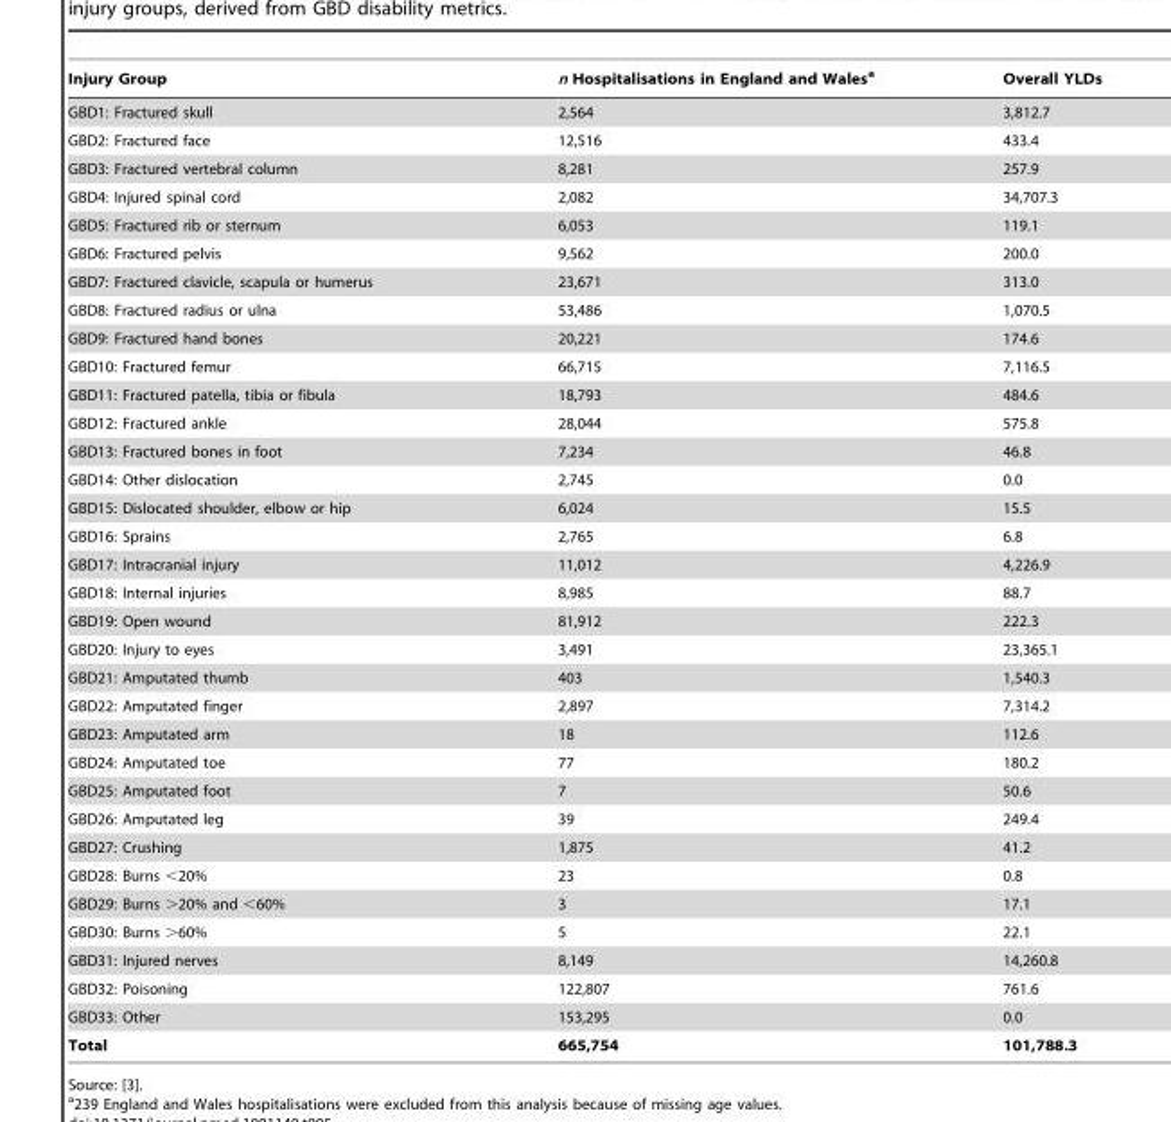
<table><thead><tr><td>Injury Group</td><td>n Hospitalisations in England and Wales<sup>a</sup></td><td>Overall YLDs</td></tr></thead><tbody><tr><td>GBD1: Fractured skull</td><td>2,564</td><td>3,812.7</td></tr><tr><td>GBD2: Fractured face</td><td>12,516</td><td>433.4</td></tr><tr><td>GBD3: Fractured vertebral column</td><td>8,281</td><td>257.9</td></tr><tr><td>GBD4: Injured spinal cord</td><td>2,082</td><td>34,707.3</td></tr><tr><td>GBD5: Fractured rib or sternum</td><td>6,053</td><td>119.1</td></tr><tr><td>GBD6: Fractured pelvis</td><td>9,562</td><td>200.0</td></tr><tr><td>GBD7: Fractured clavicle, scapula or humerus</td><td>23,671</td><td>313.0</td></tr><tr><td>GBD8: Fractured radius or ulna</td><td>53,486</td><td>1,070.5</td></tr><tr><td>GBD9: Fractured hand bones</td><td>20,221</td><td>174.6</td></tr><tr><td>GBD10: Fractured femur</td><td>66,715</td><td>7,116.5</td></tr><tr><td>GBD11: Fractured patella, tibia or fibula</td><td>18,793</td><td>484.6</td></tr><tr><td>GBD12: Fractured ankle</td><td>28,044</td><td>575.8</td></tr><tr><td>GBD13: Fractured bones in foot</td><td>7,234</td><td>46.8</td></tr><tr><td>GBD14: Other dislocation</td><td>2,745</td><td>0.0</td></tr><tr><td>GBD15: Dislocated shoulder, elbow or hip</td><td>6,024</td><td>15.5</td></tr><tr><td>GBD16: Sprains</td><td>2,765</td><td>6.8</td></tr><tr><td>GBD17: Intracranial injury</td><td>11,012</td><td>4,226.9</td></tr><tr><td>GBD18: Internal injuries</td><td>8,985</td><td>88.7</td></tr><tr><td>GBD19: Open wound</td><td>81,912</td><td>222.3</td></tr><tr><td>GBD20: Injury to eyes</td><td>3,491</td><td>23,365.1</td></tr><tr><td>GBD21: Amputated thumb</td><td>403</td><td>1,540.3</td></tr><tr><td>GBD22: Amputated finger</td><td>2,897</td><td>7,314.2</td></tr><tr><td>GBD23: Amputated arm</td><td>18</td><td>112.6</td></tr><tr><td>GBD24: Amputated toe</td><td>77</td><td>180.2</td></tr><tr><td>GBD25: Amputated foot</td><td>7</td><td>50.6</td></tr><tr><td>GBD26: Amputated leg</td><td>39</td><td>249.4</td></tr><tr><td>GBD27: Crushing</td><td>1,875</td><td>41.2</td></tr><tr><td>GBD28: Burns &lt;20%</td><td>23</td><td>0.8</td></tr><tr><td>GBD29: Burns &gt;20% and &lt;60%</td><td>3</td><td>17.1</td></tr><tr><td>GBD30: Burns &gt;60%</td><td>5</td><td>22.1</td></tr><tr><td>GBD31: Injured nerves</td><td>8,149</td><td>14,260.8</td></tr><tr><td>GBD32: Poisoning</td><td>122,807</td><td>761.6</td></tr><tr><td>GBD33: Other</td><td>153,295</td><td>0.0</td></tr><tr><td>Total</td><td>665,754</td><td>101,788.3</td></tr></tbody></table>